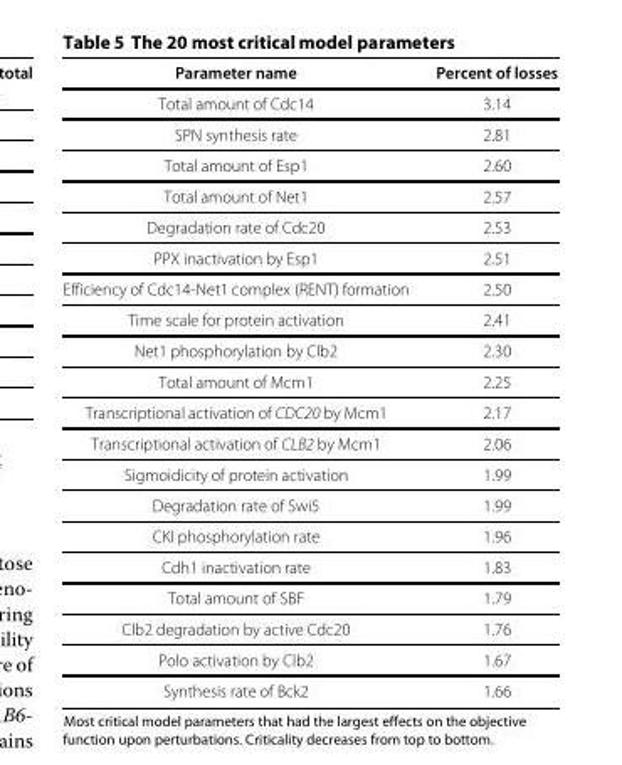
<table><thead><tr><td>Parameter name</td><td>Percent of losses</td></tr></thead><tbody><tr><td>Total amount of Cdc14</td><td>3.14</td></tr><tr><td>SPN synthesis rate</td><td>2.81</td></tr><tr><td>Total amount of Esp1</td><td>2.60</td></tr><tr><td>Total amount of Net1</td><td>2.57</td></tr><tr><td>Degradation rate of Cdc20</td><td>2.53</td></tr><tr><td>PPX inactivation by Esp1</td><td>2.51</td></tr><tr><td>Efficiency of Cdc14-Net1 complex (RENT) formation</td><td>2.50</td></tr><tr><td>Time scale for protein activation</td><td>2.41</td></tr><tr><td>Net1 phosphorylation by Clb2</td><td>2.30</td></tr><tr><td>Total amount of Mcm1</td><td>2.25</td></tr><tr><td>Transcriptional activation of CDC20 by Mcm1</td><td>2.17</td></tr><tr><td>Transcriptional activation of CLB2 by Mcm1</td><td>2.06</td></tr><tr><td>Sigmoidicity of protein activation</td><td>1.99</td></tr><tr><td>Degradation rate of Swi5</td><td>1.99</td></tr><tr><td>CKI phosphorylation rate</td><td>1.96</td></tr><tr><td>Cdh1 inactivation rate</td><td>1.83</td></tr><tr><td>Total amount of SBF</td><td>1.79</td></tr><tr><td>Clb2 degradation by active Cdc20</td><td>1.76</td></tr><tr><td>Polo activation by Clb2</td><td>1.67</td></tr><tr><td>Synthesis rate of Bck2</td><td>1.66</td></tr></tbody></table>